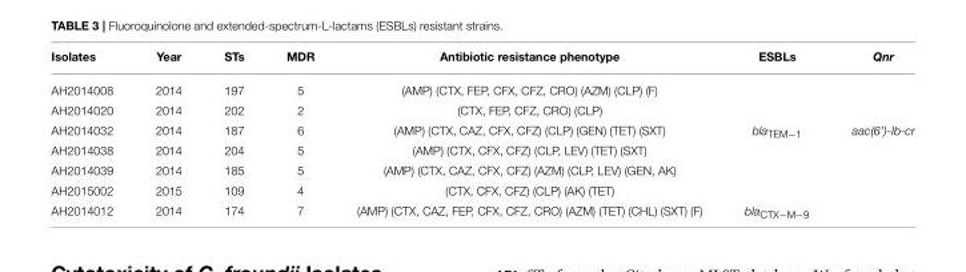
<table><thead><tr><td>Isolates</td><td>Year</td><td>STs</td><td>MDR</td><td>Antibiotic resistance phenotype</td><td>ESBLs</td><td>Qnr</td></tr></thead><tbody><tr><td>AH2014008</td><td>2014</td><td>197</td><td>5</td><td>(AMP) (CTX, FEP, CFX, CFZ, CRO) (AZM) (CLP) (F)</td><td></td><td></td></tr><tr><td>AH2014020</td><td>2014</td><td>202</td><td>2</td><td>(CTX, FEP, CFZ, CRO) (CLP)</td><td></td><td></td></tr><tr><td>AH2014032</td><td>2014</td><td>187</td><td>6</td><td>(AMP) (CTX, CAZ, CFX, CFZ) (CLP) (GEN) (TET) (SXT)</td><td>bla<sub>TEM−1</sub></td><td>aac(6’)-Ib-cr</td></tr><tr><td>AH2014038</td><td>2014</td><td>204</td><td>5</td><td>(AMP) (CTX, CFX, CFZ) (CLP, LEV) (TET) (SXT)</td><td></td><td></td></tr><tr><td>AH2014039</td><td>2014</td><td>185</td><td>5</td><td>(AMP) (CTX, CAZ, CFX, CFZ) (AZM) (CLP, LEV) (GEN, AK)</td><td></td><td></td></tr><tr><td>AH2015002</td><td>2015</td><td>109</td><td>4</td><td>(CTX, CFX, CFZ) (CLP) (AK) (TET)</td><td></td><td></td></tr><tr><td>AH2014012</td><td>2014</td><td>174</td><td>7</td><td>(AMP) (CTX, CAZ, FEP, CFX, CFZ, CRO) (AZM) (TET) (CHL) (SXT) (F)</td><td>bla<sub>CTX−M−9</sub></td><td></td></tr></tbody></table>